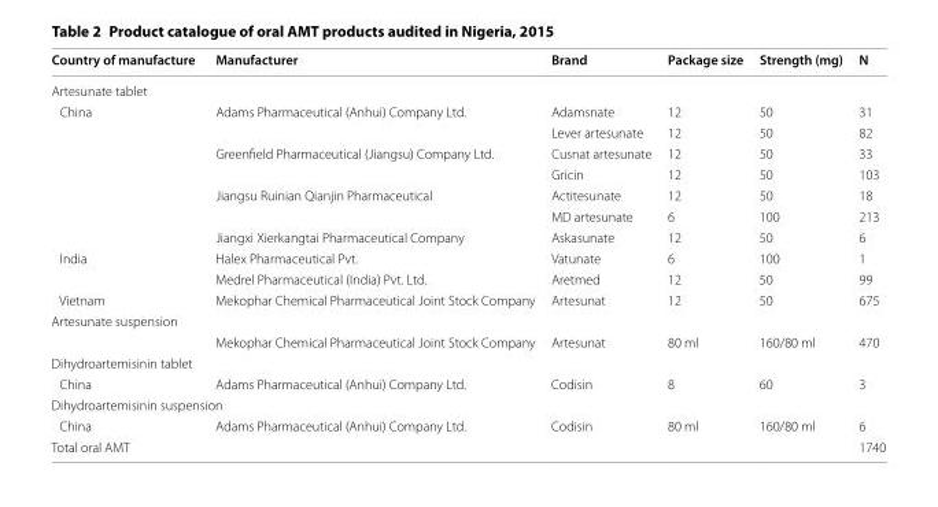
<table><thead><tr><td>Country of manufacture</td><td>Manufacturer</td><td>Brand</td><td>Package size</td><td>Strength (mg)</td><td>N</td></tr></thead><tbody><tr><td colspan="6">Artesunate tablet</td></tr><tr><td rowspan="7">China</td><td rowspan="2">Adams Pharmaceutical (Anhui) Company Ltd.</td><td>Adamsnate</td><td>12</td><td>50</td><td>31</td></tr><tr><td>Lever artesunate</td><td>12</td><td>50</td><td>82</td></tr><tr><td rowspan="2">Greenfield Pharmaceutical (Jiangsu) Company Ltd.</td><td>Cusnat artesunate</td><td>12</td><td>50</td><td>33</td></tr><tr><td>Gricin</td><td>12</td><td>50</td><td>103</td></tr><tr><td rowspan="2">Jiangsu Ruinian Qianjin Pharmaceutical</td><td>Actitesunate</td><td>12</td><td>50</td><td>18</td></tr><tr><td>MD artesunate</td><td>6</td><td>100</td><td>213</td></tr><tr><td>Jiangxi Xierkangtai Pharmaceutical Company</td><td>Askasunate</td><td>12</td><td>50</td><td>6</td></tr><tr><td rowspan="2">India</td><td>Halex Pharmaceutical Pvt.</td><td>Vatunate</td><td>6</td><td>100</td><td>1</td></tr><tr><td>Medrel Pharmaceutical (India) Pvt. Ltd.</td><td>Aretmed</td><td>12</td><td>50</td><td>99</td></tr><tr><td>Vietnam</td><td>Mekophar Chemical Pharmaceutical Joint Stock Company</td><td>Artesunat</td><td>12</td><td>50</td><td>675</td></tr><tr><td colspan="6">Artesunate suspension</td></tr><tr><td></td><td>Mekophar Chemical Pharmaceutical Joint Stock Company</td><td>Artesunat</td><td>80 ml</td><td>160/80 ml</td><td>470</td></tr><tr><td colspan="6">Dihydroartemisinin tablet</td></tr><tr><td>China</td><td>Adams Pharmaceutical (Anhui) Company Ltd.</td><td>Codisin</td><td>8</td><td>60</td><td>3</td></tr><tr><td colspan="6">Dihydroartemisinin suspension</td></tr><tr><td>China</td><td>Adams Pharmaceutical (Anhui) Company Ltd.</td><td>Codisin</td><td>80 ml</td><td>160/80 ml</td><td>6</td></tr><tr><td colspan="2">Total oral AMT</td><td></td><td></td><td></td><td>1740</td></tr></tbody></table>